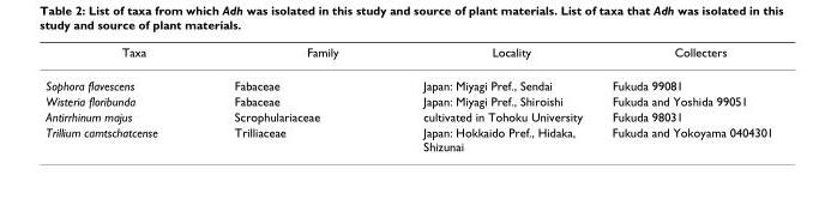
<table><thead><tr><td>Taxa</td><td>Family</td><td>Locality</td><td>Collecters</td></tr></thead><tbody><tr><td>Sophora flavescens</td><td>Fabaceae</td><td>Japan: Miyagi Pref., Sendai</td><td>Fukuda 99081</td></tr><tr><td>Wisteria floribunda</td><td>Fabaceae</td><td>Japan: Miyagi Pref., Shiroishi</td><td>Fukuda and Yoshida 99051</td></tr><tr><td>Antirrhinum majus</td><td>Scrophulariaceae</td><td>cultivated in Tohoku University</td><td>Fukuda 98031</td></tr><tr><td>Trillium camtschatcense</td><td>Trilliaceae</td><td>Japan: Hokkaido Pref., Hidaka, Shizunai</td><td>Fukuda and Yokoyama 0404301</td></tr></tbody></table>